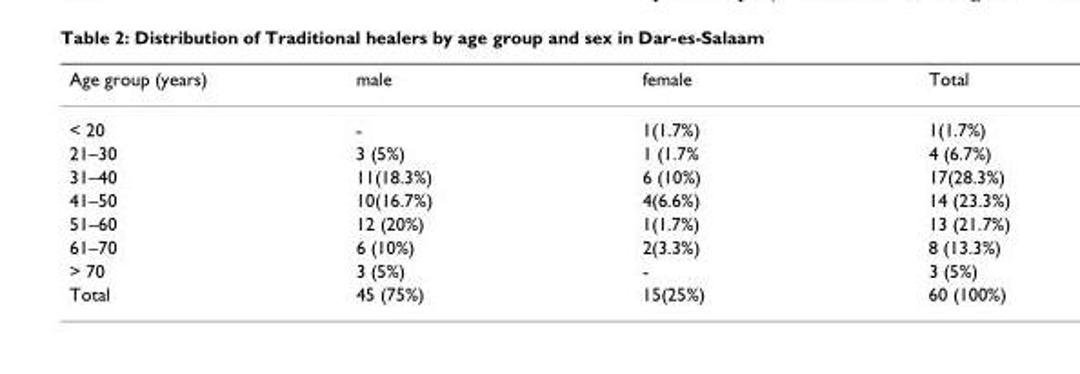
<table><thead><tr><td>Age group (years)</td><td>male</td><td>female</td><td>Total</td></tr></thead><tbody><tr><td>&lt; 20</td><td>-</td><td>1(1.7%)</td><td>1(1.7%)</td></tr><tr><td>21–30</td><td>3 (5%)</td><td>1 (1.7%</td><td>4 (6.7%)</td></tr><tr><td>31–40</td><td>11(18.3%)</td><td>6 (10%)</td><td>17(28.3%)</td></tr><tr><td>41–50</td><td>10(16.7%)</td><td>4(6.6%)</td><td>14 (23.3%)</td></tr><tr><td>51–60</td><td>12 (20%)</td><td>1(1.7%)</td><td>13 (21.7%)</td></tr><tr><td>61–70</td><td>6 (10%)</td><td>2(3.3%)</td><td>8 (13.3%)</td></tr><tr><td>&gt; 70</td><td>3 (5%)</td><td>-</td><td>3 (5%)</td></tr><tr><td>Total</td><td>45 (75%)</td><td>15(25%)</td><td>60 (100%)</td></tr></tbody></table>